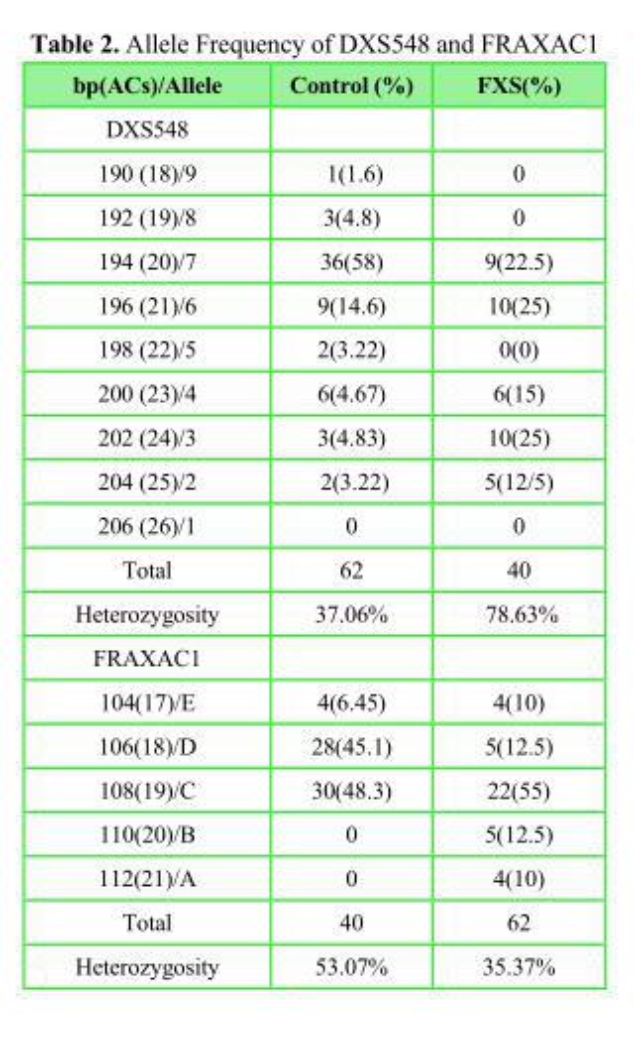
<table><thead><tr><td><sup>bp(ACs)/Allele</sup></td><td><sup>Control (%)</sup></td><td><sup>FXS(%)</sup></td></tr></thead><tbody><tr><td colspan="3"><sup>DXS548</sup></td></tr><tr><td><sup>190 (18)/9</sup></td><td><sup>1(1.6)</sup></td><td><sup>0</sup></td></tr><tr><td><sup>192 (19)/8</sup></td><td><sup>3(4.8)</sup></td><td><sup>0</sup></td></tr><tr><td><sup>194 (20)/7</sup></td><td><sup>36(58)</sup></td><td><sup>9(22.5)</sup></td></tr><tr><td><sup>196 (21)/6</sup></td><td><sup>9(14.6)</sup></td><td><sup>10(25)</sup></td></tr><tr><td><sup>198 (22)/5</sup></td><td><sup>2(3.22)</sup></td><td><sup>0(0)</sup></td></tr><tr><td><sup>200 (23)/4</sup></td><td><sup>6(4.67)</sup></td><td><sup>6(15)</sup></td></tr><tr><td><sup>202 (24)/3</sup></td><td><sup>3(4.83)</sup></td><td><sup>10(25)</sup></td></tr><tr><td><sup>204 (25)/2</sup></td><td><sup>2(3.22)</sup></td><td><sup>5(12/5)</sup></td></tr><tr><td><sup>206 (26)/1</sup></td><td><sup>0</sup></td><td><sup>0</sup></td></tr><tr><td><sup>Total</sup></td><td><sup>62</sup></td><td><sup>40</sup></td></tr><tr><td><sup>Heterozygosity</sup></td><td><sup>37.06%</sup></td><td><sup>78.63%</sup></td></tr><tr><td colspan="3"><sup>FRAXAC1</sup></td></tr><tr><td><sup>104(17)/E</sup></td><td><sup>4(6.45)</sup></td><td><sup>4(10)</sup></td></tr><tr><td><sup>106(18)/D</sup></td><td><sup>28(45.1)</sup></td><td><sup>5(12.5)</sup></td></tr><tr><td><sup>108(19)/C</sup></td><td><sup>30(48.3)</sup></td><td><sup>22(55)</sup></td></tr><tr><td><sup>110(20)/B</sup></td><td><sup>0</sup></td><td><sup>5(12.5)</sup></td></tr><tr><td><sup>112(21)/A</sup></td><td><sup>0</sup></td><td><sup>4(10)</sup></td></tr><tr><td><sup>Total</sup></td><td><sup>40</sup></td><td><sup>62</sup></td></tr><tr><td><sup>Heterozygosity</sup></td><td><sup>53.07%</sup></td><td><sup>35.37%</sup></td></tr></tbody></table>